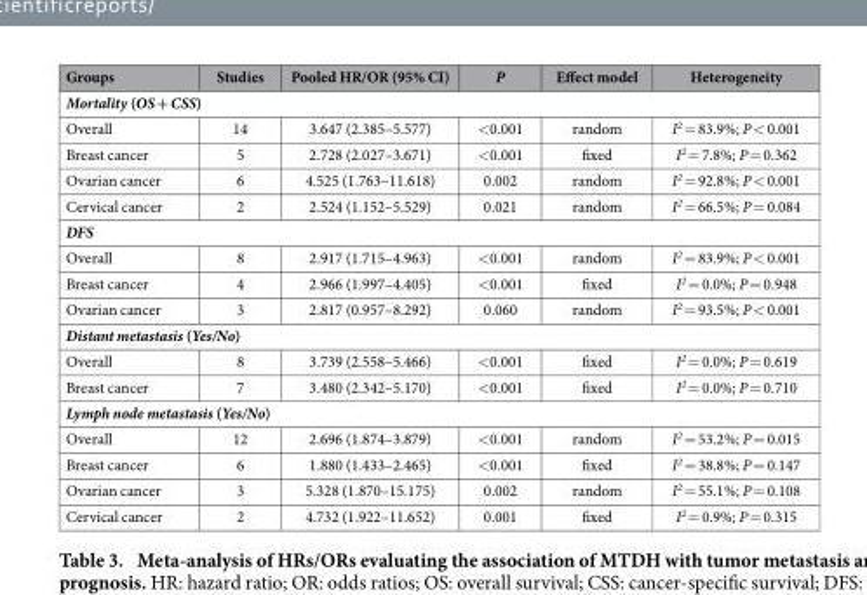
<table><thead><tr><td>Groups</td><td>Studies</td><td>Pooled HR/OR (95% CI)</td><td>P</td><td>Effect model</td><td>Heterogeneity</td></tr></thead><tbody><tr><td colspan="6">Mortality (OS + CSS)</td></tr><tr><td>Overall</td><td>14</td><td>3.647 (2.385–5.577)</td><td>&lt; 0.001</td><td>random</td><td>I<sup>2</sup> = 83.9%; P &lt; 0.001</td></tr><tr><td>Breast cancer</td><td>5</td><td>2.728 (2.027–3.671)</td><td>&lt; 0.001</td><td>fixed</td><td>I<sup>2</sup> = 7.8%; P = 0.362</td></tr><tr><td>Ovarian cancer</td><td>6</td><td>4.525 (1.763–11.618)</td><td>0.002</td><td>random</td><td>I<sup>2</sup> = 92.8%; P &lt; 0.001</td></tr><tr><td>Cervical cancer</td><td>2</td><td>2.524 (1.152–5.529)</td><td>0.021</td><td>random</td><td>I<sup>2</sup> = 66.5%; P = 0.084</td></tr><tr><td colspan="6">DFS</td></tr><tr><td>Overall</td><td>8</td><td>2.917 (1.715–4.963)</td><td>&lt; 0.001</td><td>random</td><td>I<sup>2</sup> = 83.9%; P &lt; 0.001</td></tr><tr><td>Breast cancer</td><td>4</td><td>2.966 (1.997–4.405)</td><td>&lt; 0.001</td><td>fixed</td><td>I<sup>2</sup> = 0.0%; P = 0.948</td></tr><tr><td>Ovarian cancer</td><td>3</td><td>2.817 (0.957–8.292)</td><td>0.060</td><td>random</td><td>I<sup>2</sup> = 93.5%; P &lt; 0.001</td></tr><tr><td colspan="6">Distant metastasis (Yes/No)</td></tr><tr><td>Overall</td><td>8</td><td>3.739 (2.558–5.466)</td><td>&lt; 0.001</td><td>fixed</td><td>I<sup>2</sup> = 0.0%; P = 0.619</td></tr><tr><td>Breast cancer</td><td>7</td><td>3.480 (2.342–5.170)</td><td>&lt; 0.001</td><td>fixed</td><td>I<sup>2</sup> = 0.0%; P = 0.710</td></tr><tr><td colspan="6">Lymph node metastasis (Yes/No)</td></tr><tr><td>Overall</td><td>12</td><td>2.696 (1.874–3.879)</td><td>&lt; 0.001</td><td>random</td><td>I<sup>2</sup> = 53.2%; P = 0.015</td></tr><tr><td>Breast cancer</td><td>6</td><td>1.880 (1.433–2.465)</td><td>&lt; 0.001</td><td>fixed</td><td>I<sup>2</sup> = 38.8%; P = 0.147</td></tr><tr><td>Ovarian cancer</td><td>3</td><td>5.328 (1.870–15.175)</td><td>0.002</td><td>random</td><td>I<sup>2</sup> = 55.1%; P = 0.108</td></tr><tr><td>Cervical cancer</td><td>2</td><td>4.732 (1.922–11.652)</td><td>0.001</td><td>fixed</td><td>I<sup>2</sup> = 0.9%; P = 0.315</td></tr></tbody></table>